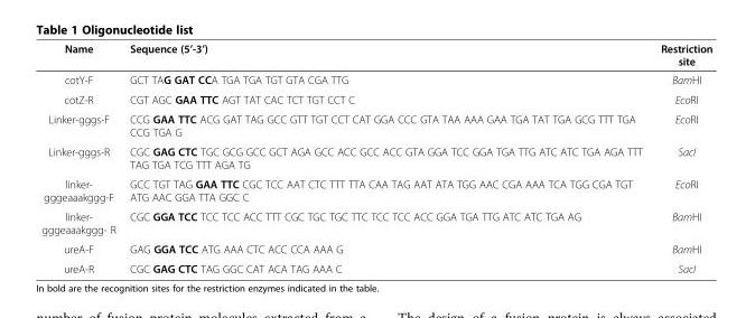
<table><thead><tr><td>Name</td><td>Sequence (5’-3’)</td><td>Restriction site</td></tr></thead><tbody><tr><td>cotY-F</td><td>GCT TAG GAT CCA TGA TGA TGT GTA CGA TTG</td><td>BamHI</td></tr><tr><td>cotZ-R</td><td>CGT AGC GAA TTC AGT TAT CAC TCT TGT CCT C</td><td>EcoRI</td></tr><tr><td>Linker-gggs-F</td><td>CCG GAA TTC ACG GAT TAG GCC GTT TGT CCT CAT GGA CCC GTA TAA AAA GAA TGA TAT TGA GCG TTT TGA CCG TGA G</td><td>EcoRI</td></tr><tr><td>Linker-gggs-R</td><td>CGC GAG CTC TGC GCG GCC GCT AGA GCC ACC GCC ACC GTA GGA TCC GGA TGA TTG ATC ATC TGA AGA TTT TAG TGA TCG TTT AGA TG</td><td>SacI</td></tr><tr><td>linker- gggeaaakggg-F</td><td>GCC TGT TAG GAA TTC CGC TCC AAT CTC TTT TTA CAA TAG AAT ATA TGG AAC CGA AAA TCA TGG CGA TGT ATG AAC GGA TTA GGC C</td><td>EcoRI</td></tr><tr><td>linker- gggeaaakggg- R</td><td>CGC GGA TCC TCC TCC ACC TTT CGC TGC TGC TTC TCC TCC ACC GGA TGA TTG ATC ATC TGA AG</td><td>BamHI</td></tr><tr><td>ureA-F</td><td>GAG GGA TCC ATG AAA CTC ACC CCA AAA G</td><td>BamHI</td></tr><tr><td>ureA-R</td><td>CGC GAG CTC TAG GGC CAT ACA TAG AAA C</td><td>SacI</td></tr></tbody></table>